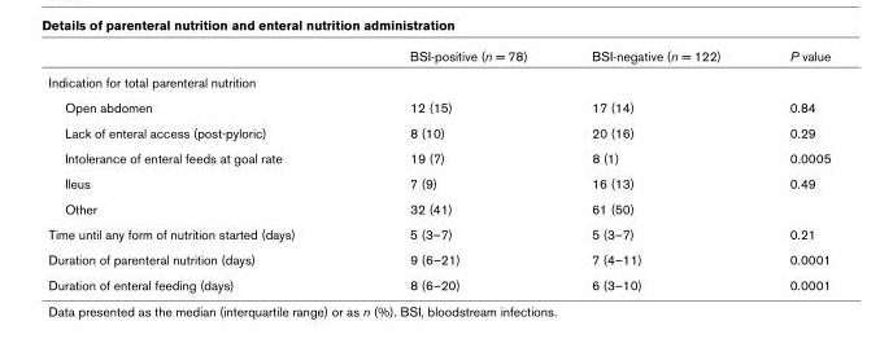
<table><thead><tr><td></td><td>BSI-positive (n = 78)</td><td>BSI-negative (n = 122)</td><td>P value</td></tr></thead><tbody><tr><td colspan="4">Indication for total parenteral nutrition</td></tr><tr><td>Open abdomen</td><td>12 (15)</td><td>17 (14)</td><td>0.84</td></tr><tr><td>Lack of enteral access (post-pyloric)</td><td>8 (10)</td><td>20 (16)</td><td>0.29</td></tr><tr><td>Intolerance of enteral feeds at goal rate</td><td>19 (7)</td><td>8 (1)</td><td>0.0005</td></tr><tr><td>Ileus</td><td>7 (9)</td><td>16 (13)</td><td>0.49</td></tr><tr><td>Other</td><td>32 (41)</td><td>61 (50)</td><td></td></tr><tr><td>Time until any form of nutrition started (days)</td><td>5 (3–7)</td><td>5 (3–7)</td><td>0.21</td></tr><tr><td>Duration of parenteral nutrition (days)</td><td>9 (6–21)</td><td>7 (4–11)</td><td>0.0001</td></tr><tr><td>Duration of enteral feeding (days)</td><td>8 (6–20)</td><td>6 (3–10)</td><td>0.0001</td></tr></tbody></table>